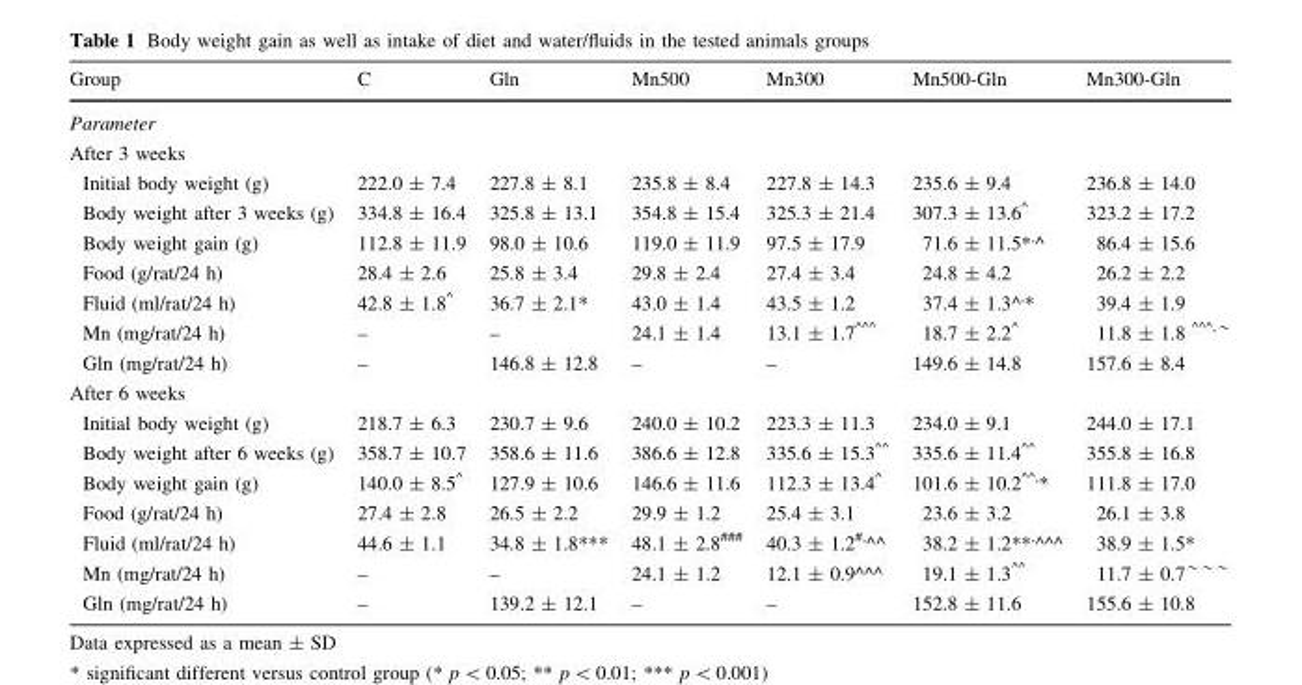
<table><thead><tr><td>Group</td><td>C</td><td>Gln</td><td>Mn500</td><td>Mn300</td><td>Mn500-Gln</td><td>Mn300-Gln</td></tr></thead><tbody><tr><td colspan="7">Parameter</td></tr><tr><td colspan="7">After 3 weeks</td></tr><tr><td>Initial body weight (g)</td><td>222.0 ± 7.4</td><td>227.8 ± 8.1</td><td>235.8 ± 8.4</td><td>227.8 ± 14.3</td><td>235.6 ± 9.4</td><td>236.8 ± 14.0</td></tr><tr><td>Body weight after 3 weeks (g)</td><td>334.8 ± 16.4</td><td>325.8 ± 13.1</td><td>354.8 ± 15.4</td><td>325.3 ± 21.4</td><td>307.3 ± 13.6<sup>^</sup></td><td>323.2 ± 17.2</td></tr><tr><td>Body weight gain (g)</td><td>112.8 ± 11.9</td><td>98.0 ± 10.6</td><td>119.0 ± 11.9</td><td>97.5 ± 17.9</td><td>71.6 ± 11.5*,^</td><td>86.4 ± 15.6</td></tr><tr><td>Food (g/rat/24 h)</td><td>28.4 ± 2.6</td><td>25.8 ± 3.4</td><td>29.8 ± 2.4</td><td>27.4 ± 3.4</td><td>24.8 ± 4.2</td><td>26.2 ± 2.2</td></tr><tr><td>Fluid (ml/rat/24 h)</td><td>42.8 ± 1.8<sup>^</sup></td><td>36.7 ± 2.1*</td><td>43.0 ± 1.4</td><td>43.5 ± 1.2</td><td>37.4 ± 1.3^,*</td><td>39.4 ± 1.9</td></tr><tr><td>Mn (mg/rat/24 h)</td><td>–</td><td>–</td><td>24.1 ± 1.4</td><td>13.1 ± 1.7^^^</td><td>18.7 ± 2.2<sup>^</sup></td><td>11.8 ± 1.8 ^^^,*</td></tr><tr><td>Gln (mg/rat/24 h)</td><td>–</td><td>146.8 ± 12.8</td><td>–</td><td>–</td><td>149.6 ± 14.8</td><td>157.6 ± 8.4</td></tr><tr><td colspan="7">After 6 weeks</td></tr><tr><td>Initial body weight (g)</td><td>218.7 ± 6.3</td><td>230.7 ± 9.6</td><td>240.0 ± 10.2</td><td>223.3 ± 11.3</td><td>234.0 ± 9.1</td><td>244.0 ± 17.1</td></tr><tr><td>Body weight after 6 weeks (g)</td><td>358.7 ± 10.7</td><td>358.6 ± 11.6</td><td>386.6 ± 12.8</td><td>335.6 ± 15.3^^</td><td>335.6 ± 11.4^^</td><td>355.8 ± 16.8</td></tr><tr><td>Body weight gain (g)</td><td>140.0 ± 8.5<sup>^</sup></td><td>127.9 ± 10.6</td><td>146.6 ± 11.6</td><td>112.3 ± 13.4<sup>^</sup></td><td>101.6 ± 10.2^^,*</td><td>111.8 ± 17.0</td></tr><tr><td>Food (g/rat/24 h)</td><td>27.4 ± 2.8</td><td>26.5 ± 2.2</td><td>29.9 ± 1.2</td><td>25.4 ± 3.1</td><td>23.6 ± 3.2</td><td>26.1 ± 3.8</td></tr><tr><td>Fluid (ml/rat/24 h)</td><td>44.6 ± 1.1</td><td>34.8 ± 1.8***</td><td>48.1 ± 2.8<sup>###</sup></td><td>40.3 ± 1.2#,^^</td><td>38.2 ± 1.2**,^^^</td><td>38.9 ± 1.5*</td></tr><tr><td>Mn (mg/rat/24 h)</td><td>–</td><td>–</td><td>24.1 ± 1.2</td><td>12.1 ± 0.9^^^</td><td>19.1 ± 1.3^^</td><td>11.7 ± 0.7***</td></tr><tr><td>Gln (mg/rat/24 h)</td><td>–</td><td>139.2 ± 12.1</td><td>–</td><td>–</td><td>152.8 ± 11.6</td><td>155.6 ± 10.8</td></tr></tbody></table>